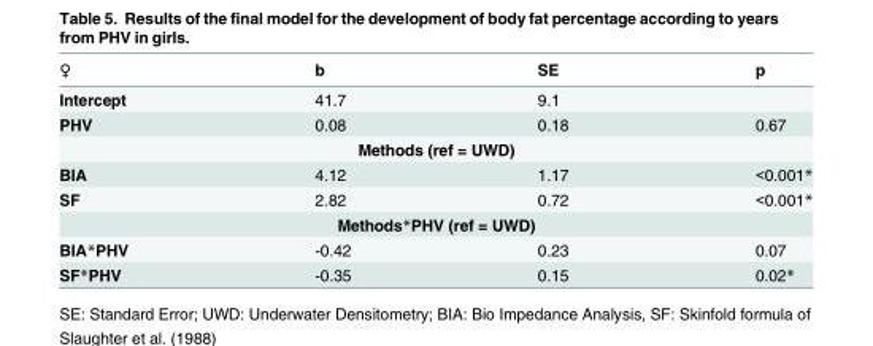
<table><thead><tr><td>♀</td><td>b</td><td>SE</td><td>p</td></tr></thead><tbody><tr><td>Intercept</td><td>41.7</td><td>9.1</td><td></td></tr><tr><td>PHV</td><td>0.08</td><td>0.18</td><td>0.67</td></tr><tr><td colspan="4">Methods (ref = UWD)</td></tr><tr><td>BIA</td><td>4.12</td><td>1.17</td><td>&lt;0.001*</td></tr><tr><td>SF</td><td>2.82</td><td>0.72</td><td>&lt;0.001*</td></tr><tr><td colspan="4">Methods*PHV (ref = UWD)</td></tr><tr><td>BIA*PHV</td><td>-0.42</td><td>0.23</td><td>0.07</td></tr><tr><td>SF*PHV</td><td>-0.35</td><td>0.15</td><td>0.02*</td></tr></tbody></table>